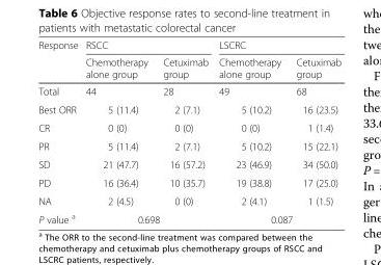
<table><thead><tr><td rowspan="2">Response</td><td colspan="2">RSCC</td><td colspan="2">LSCRC</td></tr><tr><td>Chemotherapy alone group</td><td>Cetuximab group</td><td>Chemotherapy alone group</td><td>Cetuximab group</td></tr></thead><tbody><tr><td>Total</td><td>44</td><td>28</td><td>49</td><td>68</td></tr><tr><td>Best ORR</td><td>5 (11.4)</td><td>2 (7.1)</td><td>5 (10.2)</td><td>16 (23.5)</td></tr><tr><td>CR</td><td>0 (0)</td><td>0 (0)</td><td>0 (0)</td><td>1 (1.4)</td></tr><tr><td>PR</td><td>5 (11.4)</td><td>2 (7.1)</td><td>5 (10.2)</td><td>15 (22.1)</td></tr><tr><td>SD</td><td>21 (47.7)</td><td>16 (57.2)</td><td>23 (46.9)</td><td>34 (50.0)</td></tr><tr><td>PD</td><td>16 (36.4)</td><td>10 (35.7)</td><td>19 (38.8)</td><td>17 (25.0)</td></tr><tr><td>NA</td><td>2 (4.5)</td><td>0 (0)</td><td>2 (4.1)</td><td>1 (1.5)</td></tr><tr><td>P value <sup>a</sup></td><td colspan="2">0.698</td><td colspan="2">0.087</td></tr></tbody></table>